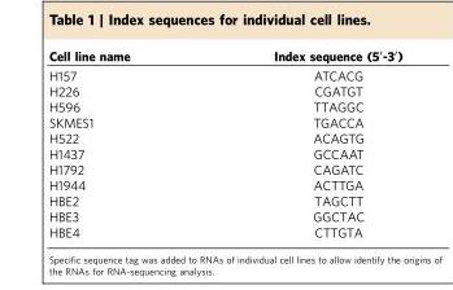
<table><thead><tr><td>Cell line name</td><td>Index sequence (5′-3′)</td></tr></thead><tbody><tr><td>H157</td><td>ATCACG</td></tr><tr><td>H226</td><td>CGATGT</td></tr><tr><td>H596</td><td>TTAGGC</td></tr><tr><td>SKMES1</td><td>TGACCA</td></tr><tr><td>H522</td><td>ACAGTG</td></tr><tr><td>H1437</td><td>GCCAAT</td></tr><tr><td>H1792</td><td>CAGATC</td></tr><tr><td>H1944</td><td>ACTTGA</td></tr><tr><td>HBE2</td><td>TAGCTT</td></tr><tr><td>HBE3</td><td>GGCTAC</td></tr><tr><td>HBE4</td><td>CTTGTA</td></tr></tbody></table>